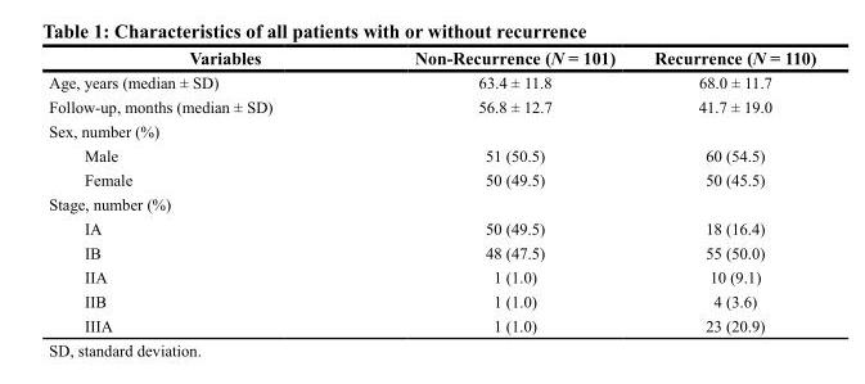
<table><thead><tr><td>Variables</td><td>Non-Recurrence (N = 101)</td><td>Recurrence (N = 110)</td></tr></thead><tbody><tr><td>Age, years (median ± SD)</td><td>63.4 ± 11.8</td><td>68.0 ± 11.7</td></tr><tr><td>Follow-up, months (median ± SD)</td><td>56.8 ± 12.7</td><td>41.7 ± 19.0</td></tr><tr><td colspan="3">Sex, number (%)</td></tr><tr><td>Male</td><td>51 (50.5)</td><td>60 (54.5)</td></tr><tr><td>Female</td><td>50 (49.5)</td><td>50 (45.5)</td></tr><tr><td colspan="3">Stage, number (%)</td></tr><tr><td>IA</td><td>50 (49.5)</td><td>18 (16.4)</td></tr><tr><td>IB</td><td>48 (47.5)</td><td>55 (50.0)</td></tr><tr><td>IIA</td><td>1 (1.0)</td><td>10 (9.1)</td></tr><tr><td>IIB</td><td>1 (1.0)</td><td>4 (3.6)</td></tr><tr><td>IIIA</td><td>1 (1.0)</td><td>23 (20.9)</td></tr></tbody></table>